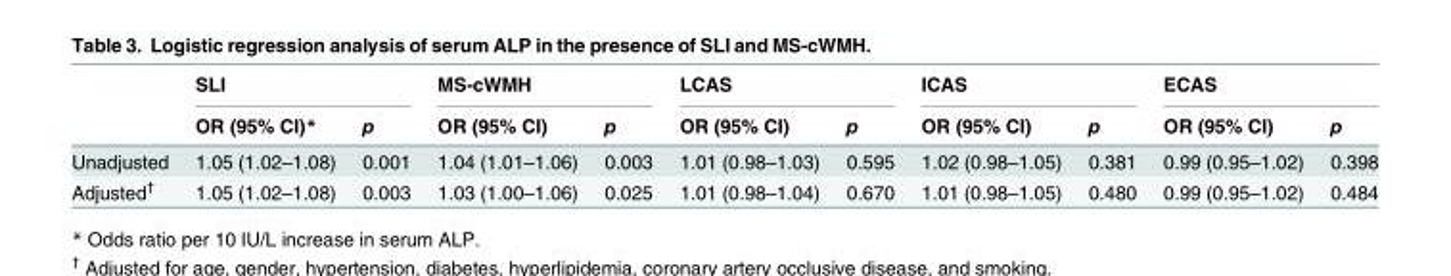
<table><thead><tr><td rowspan="2"></td><td colspan="2">SLI</td><td colspan="2">MS-cWMH</td><td colspan="2">LCAS</td><td colspan="2">ICAS</td><td colspan="2">ECAS</td></tr><tr><td>OR (95% CI)*</td><td>p</td><td>OR (95% CI)</td><td>p</td><td>OR (95% CI)</td><td>p</td><td>OR (95% CI)</td><td>p</td><td>OR (95% CI)</td><td>p</td></tr></thead><tbody><tr><td>Unadjusted</td><td>1.05 (1.02–1.08)</td><td>0.001</td><td>1.04 (1.01–1.06)</td><td>0.003</td><td>1.01 (0.98–1.03)</td><td>0.595</td><td>1.02 (0.98–1.05)</td><td>0.381</td><td>0.99 (0.95–1.02)</td><td>0.398</td></tr><tr><td>Adjusted<sup>†</sup></td><td>1.05 (1.02–1.08)</td><td>0.003</td><td>1.03 (1.00–1.06)</td><td>0.025</td><td>1.01 (0.98–1.04)</td><td>0.670</td><td>1.01 (0.98–1.05)</td><td>0.480</td><td>0.99 (0.95–1.02)</td><td>0.484</td></tr></tbody></table>